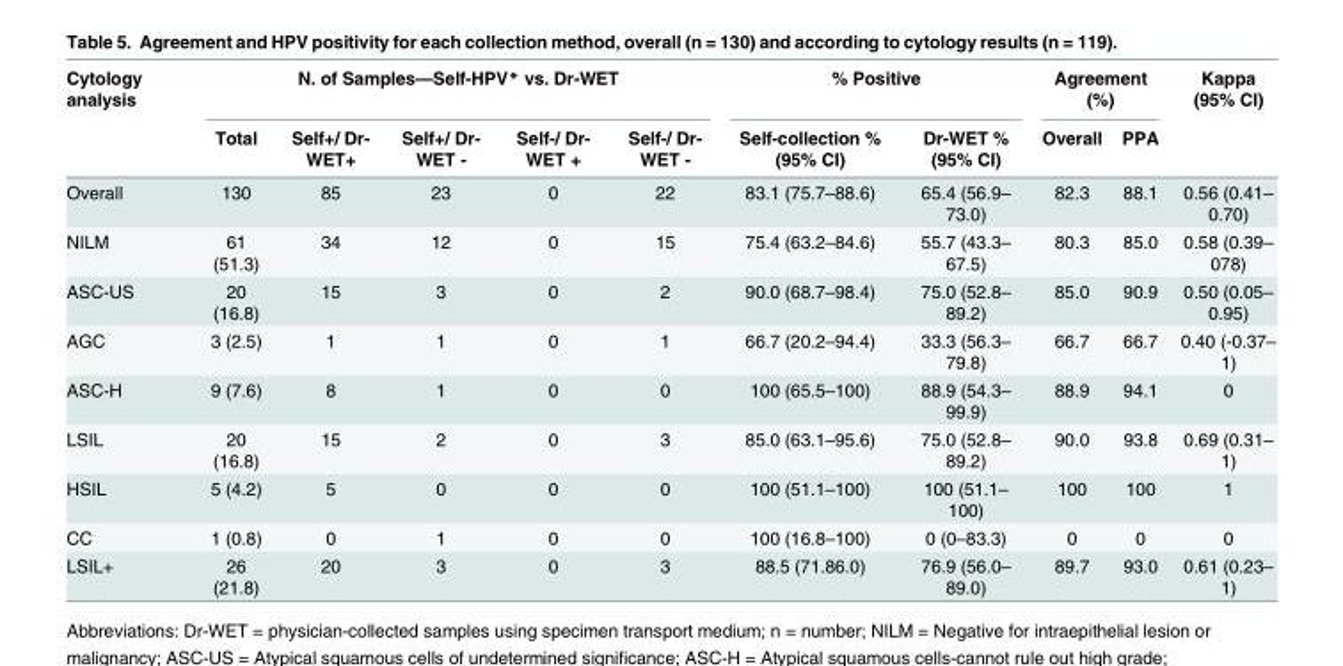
<table><thead><tr><td rowspan="2">Cytology analysis</td><td colspan="5">N. of Samples—Self-HPV* vs. Dr-WET</td><td colspan="2">% Positive</td><td colspan="2">Agreement (%)</td><td rowspan="2">Kappa (95% CI)</td></tr><tr><td>Total</td><td>Self+/ Dr- WET+</td><td>Self+/ Dr- WET -</td><td>Self-/ Dr- WET +</td><td>Self-/ Dr- WET -</td><td>Self-collection % (95% CI)</td><td>Dr-WET % (95% CI)</td><td>Overall</td><td>PPA</td></tr></thead><tbody><tr><td>Overall</td><td>130</td><td>85</td><td>23</td><td>0</td><td>22</td><td>83.1 (75.7–88.6)</td><td>65.4 (56.9– 73.0)</td><td>82.3</td><td>88.1</td><td>0.56 (0.41– 0.70)</td></tr><tr><td>NILM</td><td>61 (51.3)</td><td>34</td><td>12</td><td>0</td><td>15</td><td>75.4 (63.2–84.6)</td><td>55.7 (43.3– 67.5)</td><td>80.3</td><td>85.0</td><td>0.58 (0.39– 078)</td></tr><tr><td>ASC-US</td><td>20 (16.8)</td><td>15</td><td>3</td><td>0</td><td>2</td><td>90.0 (68.7–98.4)</td><td>75.0 (52.8– 89.2)</td><td>85.0</td><td>90.9</td><td>0.50 (0.05– 0.95)</td></tr><tr><td>AGC</td><td>3 (2.5)</td><td>1</td><td>1</td><td>0</td><td>1</td><td>66.7 (20.2–94.4)</td><td>33.3 (56.3– 79.8)</td><td>66.7</td><td>66.7</td><td>0.40 (-0.37– 1)</td></tr><tr><td>ASC-H</td><td>9 (7.6)</td><td>8</td><td>1</td><td>0</td><td>0</td><td>100 (65.5–100)</td><td>88.9 (54.3– 99.9)</td><td>88.9</td><td>94.1</td><td>0</td></tr><tr><td>LSIL</td><td>20 (16.8)</td><td>15</td><td>2</td><td>0</td><td>3</td><td>85.0 (63.1–95.6)</td><td>75.0 (52.8– 89.2)</td><td>90.0</td><td>93.8</td><td>0.69 (0.31– 1)</td></tr><tr><td>HSIL</td><td>5 (4.2)</td><td>5</td><td>0</td><td>0</td><td>0</td><td>100 (51.1–100)</td><td>100 (51.1– 100)</td><td>100</td><td>100</td><td>1</td></tr><tr><td>CC</td><td>1 (0.8)</td><td>0</td><td>1</td><td>0</td><td>0</td><td>100 (16.8–100)</td><td>0 (0–83.3)</td><td>0</td><td>0</td><td>0</td></tr><tr><td>LSIL+</td><td>26 (21.8)</td><td>20</td><td>3</td><td>0</td><td>3</td><td>88.5 (71.86.0)</td><td>76.9 (56.0– 89.0)</td><td>89.7</td><td>93.0</td><td>0.61 (0.23– 1)</td></tr></tbody></table>